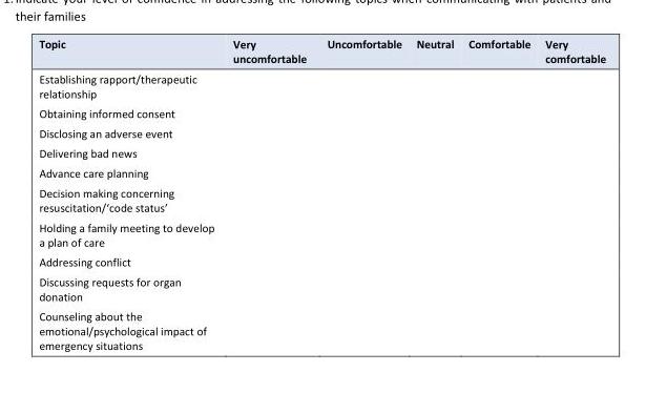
<table><thead><tr><td>Topic</td><td>Very uncomfortable</td><td>Uncomfortable</td><td>Neutral</td><td>Comfortable</td><td>Very comfortable</td></tr></thead><tbody><tr><td colspan="6">Establishing rapport/therapeutic relationship</td></tr><tr><td colspan="6">Obtaining informed consent</td></tr><tr><td colspan="6">Disclosing an adverse event</td></tr><tr><td colspan="6">Delivering bad news</td></tr><tr><td colspan="6">Advance care planning</td></tr><tr><td colspan="6">Decision making concerning resuscitation/‘code status’</td></tr><tr><td colspan="6">Holding a family meeting to develop a plan of care</td></tr><tr><td colspan="6">Addressing conflict</td></tr><tr><td colspan="6">Discussing requests for organ donation</td></tr><tr><td>Counseling about the emotional/psychological impact of emergency situations</td><td></td><td></td><td></td><td></td><td></td></tr></tbody></table>